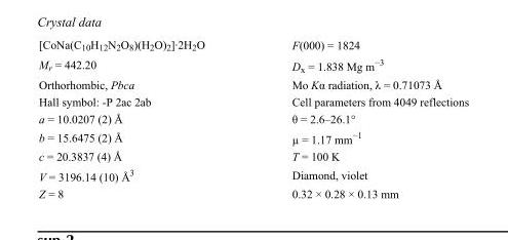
<table><tbody><tr><td>[CoNa(C<sub>10</sub>H<sub>12</sub>N<sub>2</sub>O<sub>8</sub>)(H<sub>2</sub>O)<sub>2</sub>]·2H<sub>2</sub>O</td><td>F(000) = 1824</td></tr><tr><td>M<sub>r</sub> = 442.20</td><td>D<sub>x</sub> = 1.838 Mg m<sup>−3</sup></td></tr><tr><td>Orthorhombic, Pbca</td><td>Mo Kα radiation, λ = 0.71073 Å</td></tr><tr><td>Hall symbol: -P 2ac 2ab</td><td>Cell parameters from 4049 reflections</td></tr><tr><td>a = 10.0207 (2) Å</td><td>θ = 2.6–26.1°</td></tr><tr><td>b = 15.6475 (2) Å</td><td>µ = 1.17 mm<sup>−1</sup></td></tr><tr><td>c = 20.3837 (4) Å</td><td>T = 100 K</td></tr><tr><td>V = 3196.14 (10) Å<sup>3</sup></td><td>Diamond, violet</td></tr><tr><td>Z = 8</td><td>0.32 × 0.28 × 0.13 mm</td></tr></tbody></table>